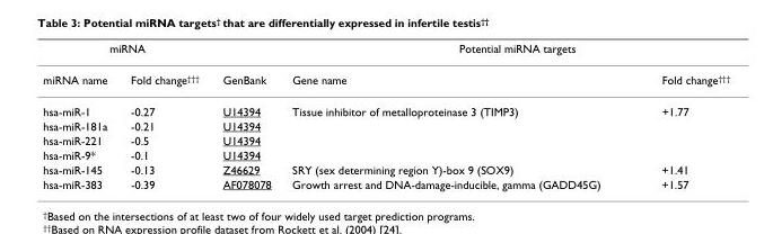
<table><thead><tr><td colspan="2">miRNA</td><td rowspan="2">GenBank</td><td colspan="2">Potential miRNA targets</td></tr><tr><td>miRNA name</td><td>Fold change<sup>†††</sup></td><td>Gene name</td><td>Fold change<sup>†††</sup></td></tr></thead><tbody><tr><td>hsa-miR-1</td><td>-0.27</td><td>U14394</td><td>Tissue inhibitor of metalloproteinase 3 (TIMP3)</td><td>+1.77</td></tr><tr><td>hsa-miR-181a</td><td>-0.21</td><td>U14394</td><td></td><td></td></tr><tr><td>hsa-miR-221</td><td>-0.5</td><td>U14394</td><td></td><td></td></tr><tr><td>hsa-miR-9*</td><td>-0.1</td><td>U14394</td><td></td><td></td></tr><tr><td>hsa-miR-145</td><td>-0.13</td><td>Z46629</td><td>SRY (sex determining region Y)-box 9 (SOX9)</td><td>+1.41</td></tr><tr><td>hsa-miR-383</td><td>-0.39</td><td>AF078078</td><td>Growth arrest and DNA-damage-inducible, gamma (GADD45G)</td><td>+1.57</td></tr></tbody></table>